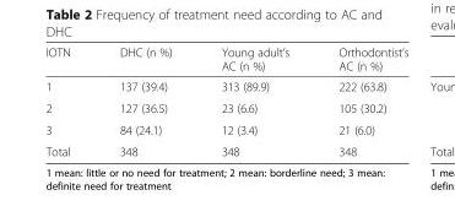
<table><thead><tr><td>IOTN</td><td>DHC (n %)</td><td>Young adult’s AC (n %)</td><td>Orthodontist’s AC (n %)</td></tr></thead><tbody><tr><td>1</td><td>137 (39.4)</td><td>313 (89.9)</td><td>222 (63.8)</td></tr><tr><td>2</td><td>127 (36.5)</td><td>23 (6.6)</td><td>105 (30.2)</td></tr><tr><td>3</td><td>84 (24.1)</td><td>12 (3.4)</td><td>21 (6.0)</td></tr><tr><td>Total</td><td>348</td><td>348</td><td>348</td></tr></tbody></table>